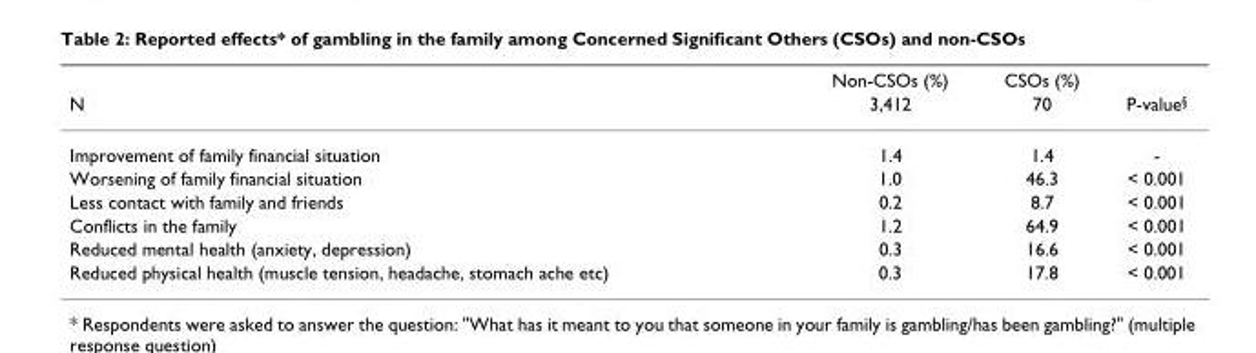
<table><thead><tr><td rowspan="2">N</td><td rowspan="2">Non-CSOs (%) 3,412</td><td rowspan="2">CSOs (%) 70</td><td rowspan="2">P-value<sup>§</sup></td></tr><tr></tr></thead><tbody><tr><td>Improvement of family financial situation</td><td>1.4</td><td>1.4</td><td>-</td></tr><tr><td>Worsening of family financial situation</td><td>1.0</td><td>46.3</td><td>&lt; 0.001</td></tr><tr><td>Less contact with family and friends</td><td>0.2</td><td>8.7</td><td>&lt; 0.001</td></tr><tr><td>Conflicts in the family</td><td>1.2</td><td>64.9</td><td>&lt; 0.001</td></tr><tr><td>Reduced mental health (anxiety, depression)</td><td>0.3</td><td>16.6</td><td>&lt; 0.001</td></tr><tr><td>Reduced physical health (muscle tension, headache, stomach ache etc)</td><td>0.3</td><td>17.8</td><td>&lt; 0.001</td></tr></tbody></table>